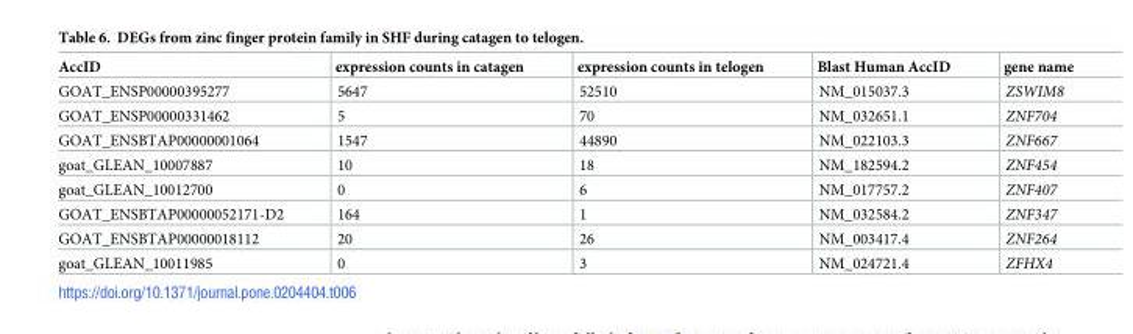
<table><thead><tr><td>AccID</td><td>expression counts in catagen</td><td>expression counts in telogen</td><td>Blast Human AccID</td><td>gene name</td></tr></thead><tbody><tr><td>GOAT_ENSP00000395277</td><td>5647</td><td>52510</td><td>NM_015037.3</td><td>ZSWIM8</td></tr><tr><td>GOAT_ENSP00000331462</td><td>5</td><td>70</td><td>NM_032651.1</td><td>ZNF704</td></tr><tr><td>GOAT_ENSBTAP00000001064</td><td>1547</td><td>44890</td><td>NM_022103.3</td><td>ZNF667</td></tr><tr><td>goat_GLEAN_10007887</td><td>10</td><td>18</td><td>NM_182594.2</td><td>ZNF454</td></tr><tr><td>goat_GLEAN_10012700</td><td>0</td><td>6</td><td>NM_017757.2</td><td>ZNF407</td></tr><tr><td>GOAT_ENSBTAP00000052171-D2</td><td>164</td><td>1</td><td>NM_032584.2</td><td>ZNF347</td></tr><tr><td>GOAT_ENSBTAP00000018112</td><td>20</td><td>26</td><td>NM_003417.4</td><td>ZNF264</td></tr><tr><td>goat_GLEAN_10011985</td><td>0</td><td>3</td><td>NM_024721.4</td><td>ZFHX4</td></tr></tbody></table>